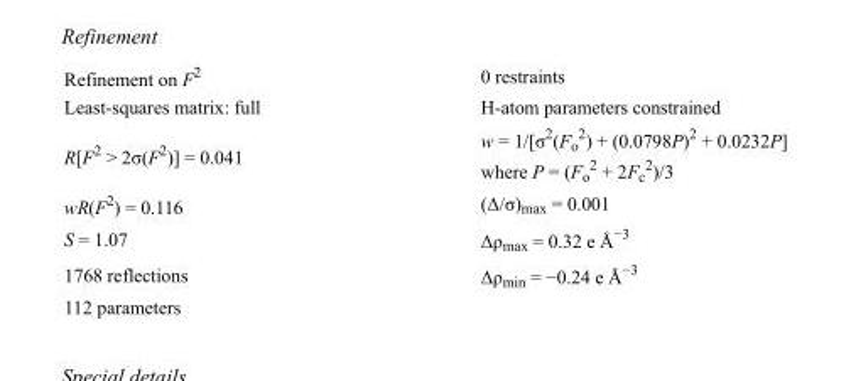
<table><tbody><tr><td>Refinement on F<sup>2</sup></td><td>0 restraints</td></tr><tr><td>Least-squares matrix: full</td><td>H-atom parameters constrained</td></tr><tr><td>R[F<sup>2</sup> &gt; 2σ(F<sup>2</sup>)] = 0.041</td><td>w = 1/[σ<sup>2</sup>(F<sub>o</sub> <sup>2</sup>) + (0.0798P)<sup>2</sup> + 0.0232P] where P = (F<sub>o</sub> <sup>2</sup> + 2F<sub>c</sub> <sup>2</sup>)/3</td></tr><tr><td>wR(F<sup>2</sup>) = 0.116</td><td>(Δ/σ)<sub>max</sub> = 0.001</td></tr><tr><td>S = 1.07</td><td>Δρ<sub>max</sub> = 0.32 e Å<sup>−3</sup></td></tr><tr><td>1768 reflections</td><td>Δρ<sub>min</sub> = −0.24 e Å<sup>−3</sup></td></tr><tr><td>112 parameters</td><td></td></tr></tbody></table>